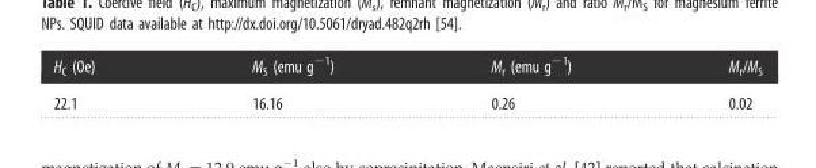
<table><thead><tr><td>H<sub>C</sub> (Oe)</td><td>M<sub>S</sub> (emu g<sup>−1</sup>)</td><td>M<sub>r</sub> (emu g<sup>−1</sup>)</td><td>M<sub>r</sub>/M<sub>S</sub></td></tr></thead><tbody><tr><td>22.1</td><td>16.16</td><td>0.26</td><td>0.02</td></tr></tbody></table>